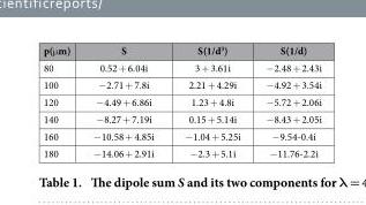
<table><thead><tr><td>p(μ m)</td><td>S</td><td>S(1/d<sup>3</sup>)</td><td>S(1/d)</td></tr></thead><tbody><tr><td>80</td><td>0.52 + 6.04i</td><td>3 + 3.61i</td><td>− 2.48 + 2.43i</td></tr><tr><td>100</td><td>− 2.71 + 7.8i</td><td>2.21 + 4.29i</td><td>− 4.92 + 3.54i</td></tr><tr><td>120</td><td>− 4.49 + 6.86i</td><td>1.23 + 4.8i</td><td>− 5.72 + 2.06i</td></tr><tr><td>140</td><td>− 8.27 + 7.19i</td><td>0.15 + 5.14i</td><td>− 8.43 + 2.05i</td></tr><tr><td>160</td><td>− 10.58 + 4.85i</td><td>− 1.04 + 5.25i</td><td>− 9.54-0.4i</td></tr><tr><td>180</td><td>− 14.06 + 2.91i</td><td>− 2.3 + 5.1i</td><td>− 11.76-2.2i</td></tr></tbody></table>